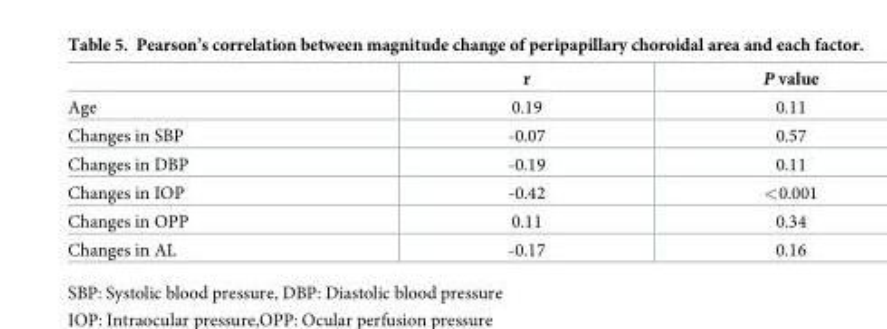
<table><thead><tr><td></td><td>r</td><td>P value</td></tr></thead><tbody><tr><td>Age</td><td>0.19</td><td>0.11</td></tr><tr><td>Changes in SBP</td><td>-0.07</td><td>0.57</td></tr><tr><td>Changes in DBP</td><td>-0.19</td><td>0.11</td></tr><tr><td>Changes in IOP</td><td>-0.42</td><td>&lt;0.001</td></tr><tr><td>Changes in OPP</td><td>0.11</td><td>0.34</td></tr><tr><td>Changes in AL</td><td>-0.17</td><td>0.16</td></tr></tbody></table>